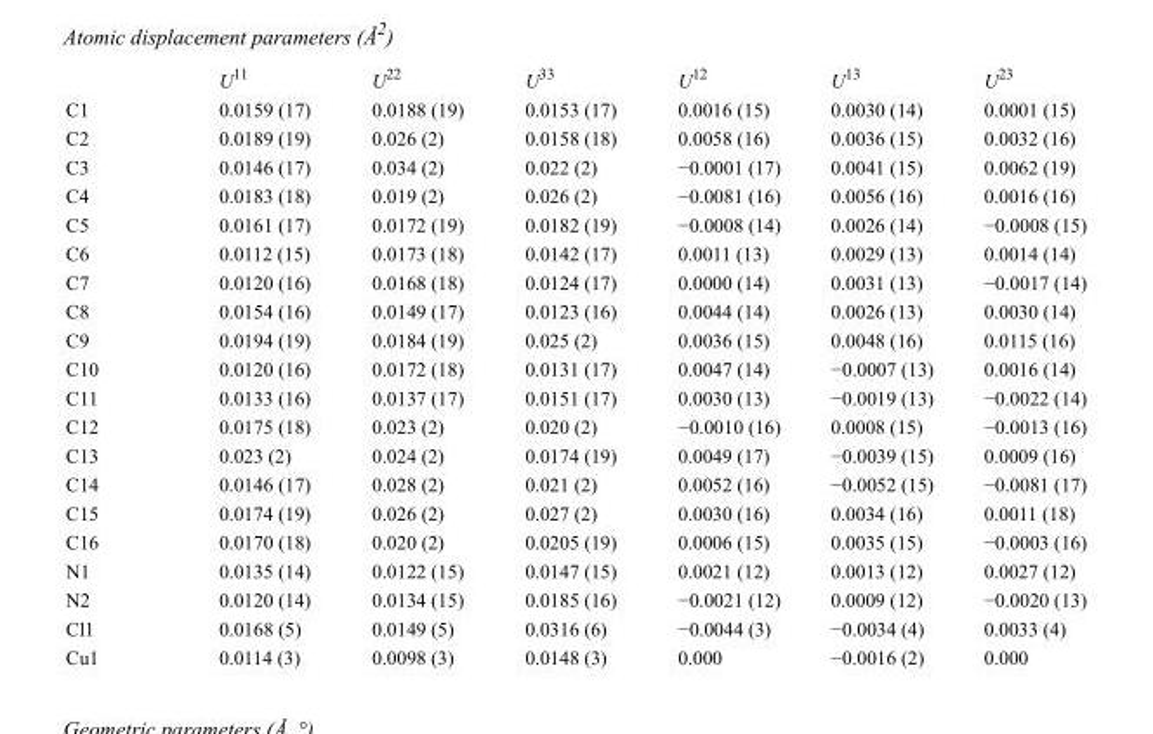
<table><thead><tr><td></td><td>U<sup>11</sup></td><td>U<sup>22</sup></td><td>U<sup>33</sup></td><td>U<sup>12</sup></td><td>U<sup>13</sup></td><td>U<sup>23</sup></td></tr></thead><tbody><tr><td>C1</td><td>0.0159 (17)</td><td>0.0188 (19)</td><td>0.0153 (17)</td><td>0.0016 (15)</td><td>0.0030 (14)</td><td>0.0001 (15)</td></tr><tr><td>C2</td><td>0.0189 (19)</td><td>0.026 (2)</td><td>0.0158 (18)</td><td>0.0058 (16)</td><td>0.0036 (15)</td><td>0.0032 (16)</td></tr><tr><td>C3</td><td>0.0146 (17)</td><td>0.034 (2)</td><td>0.022 (2)</td><td>−0.0001 (17)</td><td>0.0041 (15)</td><td>0.0062 (19)</td></tr><tr><td>C4</td><td>0.0183 (18)</td><td>0.019 (2)</td><td>0.026 (2)</td><td>−0.0081 (16)</td><td>0.0056 (16)</td><td>0.0016 (16)</td></tr><tr><td>C5</td><td>0.0161 (17)</td><td>0.0172 (19)</td><td>0.0182 (19)</td><td>−0.0008 (14)</td><td>0.0026 (14)</td><td>−0.0008 (15)</td></tr><tr><td>C6</td><td>0.0112 (15)</td><td>0.0173 (18)</td><td>0.0142 (17)</td><td>0.0011 (13)</td><td>0.0029 (13)</td><td>0.0014 (14)</td></tr><tr><td>C7</td><td>0.0120 (16)</td><td>0.0168 (18)</td><td>0.0124 (17)</td><td>0.0000 (14)</td><td>0.0031 (13)</td><td>−0.0017 (14)</td></tr><tr><td>C8</td><td>0.0154 (16)</td><td>0.0149 (17)</td><td>0.0123 (16)</td><td>0.0044 (14)</td><td>0.0026 (13)</td><td>0.0030 (14)</td></tr><tr><td>C9</td><td>0.0194 (19)</td><td>0.0184 (19)</td><td>0.025 (2)</td><td>0.0036 (15)</td><td>0.0048 (16)</td><td>0.0115 (16)</td></tr><tr><td>C10</td><td>0.0120 (16)</td><td>0.0172 (18)</td><td>0.0131 (17)</td><td>0.0047 (14)</td><td>−0.0007 (13)</td><td>0.0016 (14)</td></tr><tr><td>C11</td><td>0.0133 (16)</td><td>0.0137 (17)</td><td>0.0151 (17)</td><td>0.0030 (13)</td><td>−0.0019 (13)</td><td>−0.0022 (14)</td></tr><tr><td>C12</td><td>0.0175 (18)</td><td>0.023 (2)</td><td>0.020 (2)</td><td>−0.0010 (16)</td><td>0.0008 (15)</td><td>−0.0013 (16)</td></tr><tr><td>C13</td><td>0.023 (2)</td><td>0.024 (2)</td><td>0.0174 (19)</td><td>0.0049 (17)</td><td>−0.0039 (15)</td><td>0.0009 (16)</td></tr><tr><td>C14</td><td>0.0146 (17)</td><td>0.028 (2)</td><td>0.021 (2)</td><td>0.0052 (16)</td><td>−0.0052 (15)</td><td>−0.0081 (17)</td></tr><tr><td>C15</td><td>0.0174 (19)</td><td>0.026 (2)</td><td>0.027 (2)</td><td>0.0030 (16)</td><td>0.0034 (16)</td><td>0.0011 (18)</td></tr><tr><td>C16</td><td>0.0170 (18)</td><td>0.020 (2)</td><td>0.0205 (19)</td><td>0.0006 (15)</td><td>0.0035 (15)</td><td>−0.0003 (16)</td></tr><tr><td>N1</td><td>0.0135 (14)</td><td>0.0122 (15)</td><td>0.0147 (15)</td><td>0.0021 (12)</td><td>0.0013 (12)</td><td>0.0027 (12)</td></tr><tr><td>N2</td><td>0.0120 (14)</td><td>0.0134 (15)</td><td>0.0185 (16)</td><td>−0.0021 (12)</td><td>0.0009 (12)</td><td>−0.0020 (13)</td></tr><tr><td>Cl1</td><td>0.0168 (5)</td><td>0.0149 (5)</td><td>0.0316 (6)</td><td>−0.0044 (3)</td><td>−0.0034 (4)</td><td>0.0033 (4)</td></tr><tr><td>Cu1</td><td>0.0114 (3)</td><td>0.0098 (3)</td><td>0.0148 (3)</td><td>0.000</td><td>−0.0016 (2)</td><td>0.000</td></tr></tbody></table>